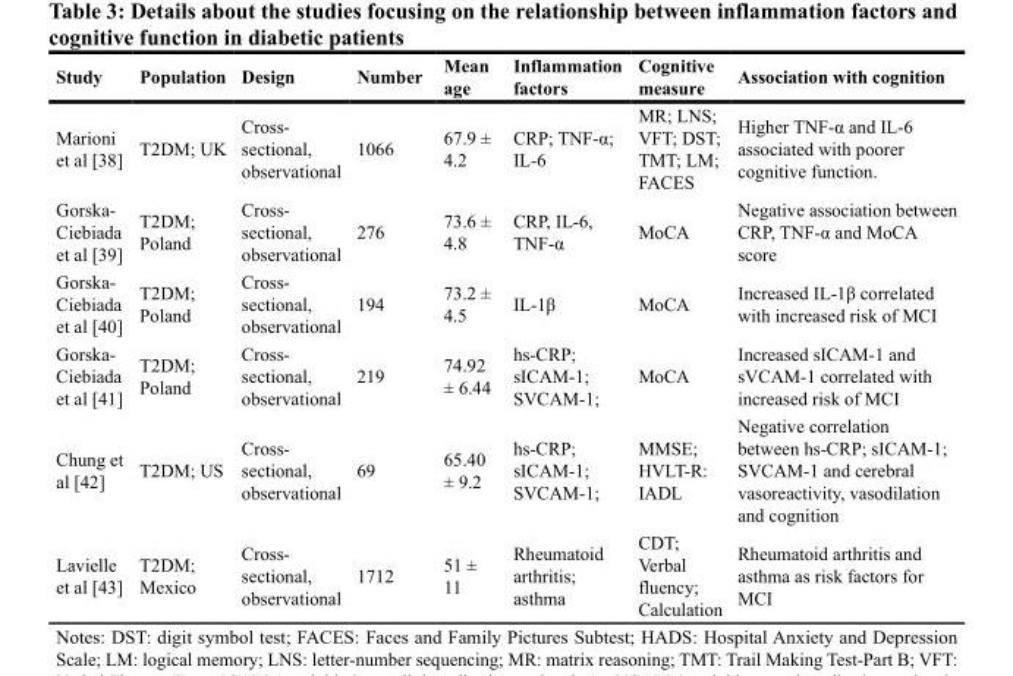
<table><thead><tr><td>Study</td><td>Population</td><td>Design</td><td>Number</td><td>Mean age</td><td>Inflammation factors</td><td>Cognitive measure</td><td>Association with cognition</td></tr></thead><tbody><tr><td>Marioni et al [38]</td><td>T2DM; UK</td><td>Cross- sectional, observational</td><td>1066</td><td>67.9 ± 4.2</td><td>CRP; TNF-α; IL-6</td><td>MR; LNS; VFT; DST; TMT; LM; FACES</td><td>Higher TNF-α and IL-6 associated with poorer cognitive function.</td></tr><tr><td>Gorska- Ciebiada et al [39]</td><td>T2DM; Poland</td><td>Cross- sectional, observational</td><td>276</td><td>73.6 ± 4.8</td><td>CRP, IL-6, TNF-α</td><td>MoCA</td><td>Negative association between CRP, TNF-α and MoCA score</td></tr><tr><td>Gorska- Ciebiada et al [40]</td><td>T2DM; Poland</td><td>Cross- sectional, observational</td><td>194</td><td>73.2 ± 4.5</td><td>IL-1β</td><td>MoCA</td><td>Increased IL-1β correlated with increased risk of MCI</td></tr><tr><td>Gorska- Ciebiada et al [41]</td><td>T2DM; Poland</td><td>Cross- sectional, observational</td><td>219</td><td>74.92 ± 6.44</td><td>hs-CRP; sICAM-1; SVCAM-1;</td><td>MoCA</td><td>Increased sICAM-1 and sVCAM-1 correlated with increased risk of MCI</td></tr><tr><td>Chung et al [42]</td><td>T2DM; US</td><td>Cross- sectional, observational</td><td>69</td><td>65.40 ± 9.2</td><td>hs-CRP; sICAM-1; SVCAM-1;</td><td>MMSE; HVLT-R: IADL</td><td>Negative correlation between hs-CRP; sICAM-1; SVCAM-1 and cerebral vasoreactivity, vasodilation and cognition</td></tr><tr><td>Lavielle et al [43]</td><td>T2DM; Mexico</td><td>Cross- sectional, observational</td><td>1712</td><td>51 ± 11</td><td>Rheumatoid arthritis; asthma</td><td>CDT; Verbal fluency; Calculation</td><td>Rheumatoid arthritis and asthma as risk factors for MCI</td></tr></tbody></table>